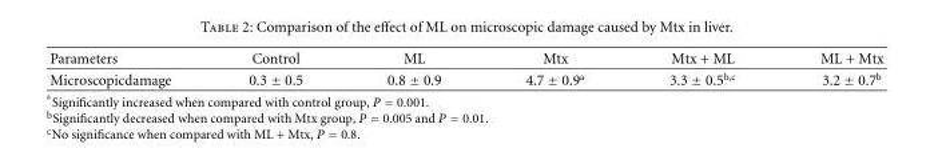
<table><thead><tr><td>Parameters</td><td>Control</td><td>ML</td><td>Mtx</td><td>Mtx + ML</td><td>ML + Mtx</td></tr></thead><tbody><tr><td>Microscopicdamage</td><td>0.3 ± 0.5</td><td>0.8 ± 0.9</td><td>4.7 ± 0.9<sup>a</sup></td><td>3.3 ± 0.5<sup>b,c</sup></td><td>3.2 ± 0.7<sup>b</sup></td></tr></tbody></table>